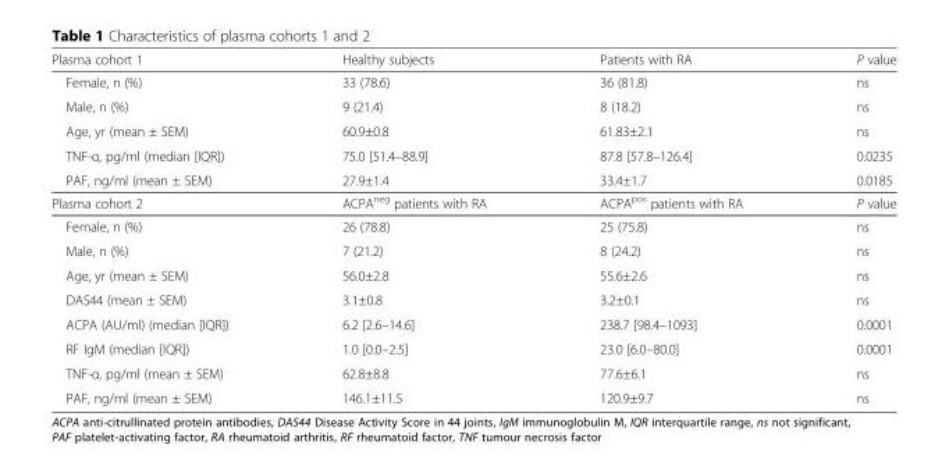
<table><thead><tr><td>Plasma cohort 1</td><td>Healthy subjects</td><td>Patients with RA</td><td>P value</td></tr></thead><tbody><tr><td>Female, n (%)</td><td>33 (78.6)</td><td>36 (81.8)</td><td>ns</td></tr><tr><td>Male, n (%)</td><td>9 (21.4)</td><td>8 (18.2)</td><td>ns</td></tr><tr><td>Age, yr (mean ± SEM)</td><td>60.9±0.8</td><td>61.83±2.1</td><td>ns</td></tr><tr><td>TNF-α, pg/ml (median [IQR])</td><td>75.0 [51.4–88.9]</td><td>87.8 [57.8–126.4]</td><td>0.0235</td></tr><tr><td>PAF, ng/ml (mean ± SEM)</td><td>27.9±1.4</td><td>33.4±1.7</td><td>0.0185</td></tr><tr><td>Plasma cohort 2</td><td>ACPA<sup>neg</sup> patients with RA</td><td>ACPA<sup>pos</sup> patients with RA</td><td>P value</td></tr><tr><td>Female, n (%)</td><td>26 (78.8)</td><td>25 (75.8)</td><td>ns</td></tr><tr><td>Male, n (%)</td><td>7 (21.2)</td><td>8 (24.2)</td><td>ns</td></tr><tr><td>Age, yr (mean ± SEM)</td><td>56.0±2.8</td><td>55.6±2.6</td><td>ns</td></tr><tr><td>DAS44 (mean ± SEM)</td><td>3.1±0.8</td><td>3.2±0.1</td><td>ns</td></tr><tr><td>ACPA (AU/ml) (median [IQR])</td><td>6.2 [2.6–14.6]</td><td>238.7 [98.4–1093]</td><td>0.0001</td></tr><tr><td>RF IgM (median [IQR])</td><td>1.0 [0.0–2.5]</td><td>23.0 [6.0–80.0]</td><td>0.0001</td></tr><tr><td>TNF-α, pg/ml (mean ± SEM)</td><td>62.8±8.8</td><td>77.6±6.1</td><td>ns</td></tr><tr><td>PAF, ng/ml (mean ± SEM)</td><td>146.1±11.5</td><td>120.9±9.7</td><td>ns</td></tr></tbody></table>